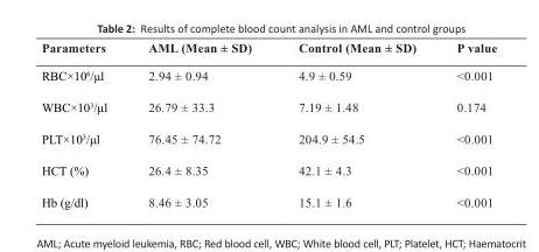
<table><thead><tr><td>Parameters</td><td>AML (Mean ± SD)</td><td>Control (Mean ± SD)</td><td>P value</td></tr></thead><tbody><tr><td>RBC×10<sup>6</sup>/μl</td><td>2.94 ± 0.94</td><td>4.9 ± 0.59</td><td>&lt;0.001</td></tr><tr><td>WBC×10<sup>3</sup>/μl</td><td>26.79 ± 33.3</td><td>7.19 ± 1.48</td><td>0.174</td></tr><tr><td>PLT×10<sup>3</sup>/μl</td><td>76.45 ± 74.72</td><td>204.9 ± 54.5</td><td>&lt;0.001</td></tr><tr><td>HCT (%)</td><td>26.4 ± 8.35</td><td>42.1 ± 4.3</td><td>&lt;0.001</td></tr><tr><td>Hb (g/dl)</td><td>8.46 ± 3.05</td><td>15.1 ± 1.6</td><td>&lt;0.001</td></tr></tbody></table>